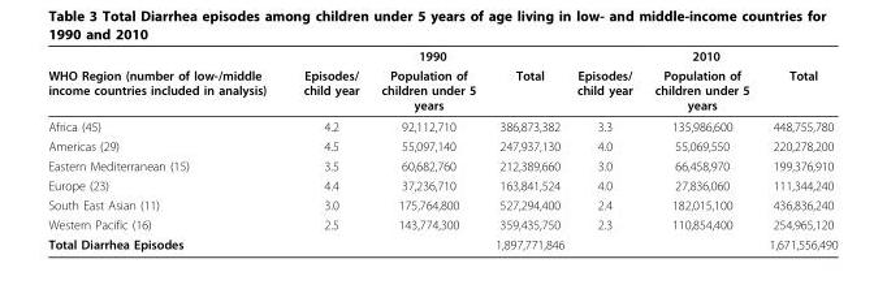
<table><thead><tr><td rowspan="2">WHO Region (number of low-/middle income countries included in analysis)</td><td colspan="3">1990</td><td colspan="3">2010</td></tr><tr><td>Episodes/ child year</td><td>Population of children under 5 years</td><td>Total</td><td>Episodes/ child year</td><td>Population of children under 5 years</td><td>Total</td></tr></thead><tbody><tr><td>Africa (45)</td><td>4.2</td><td>92,112,710</td><td>386,873,382</td><td>3.3</td><td>135,986,600</td><td>448,755,780</td></tr><tr><td>Americas (29)</td><td>4.5</td><td>55,097,140</td><td>247,937,130</td><td>4.0</td><td>55,069,550</td><td>220,278,200</td></tr><tr><td>Eastern Mediterranean (15)</td><td>3.5</td><td>60,682,760</td><td>212,389,660</td><td>3.0</td><td>66,458,970</td><td>199,376,910</td></tr><tr><td>Europe (23)</td><td>4.4</td><td>37,236,710</td><td>163,841,524</td><td>4.0</td><td>27,836,060</td><td>111,344,240</td></tr><tr><td>South East Asian (11)</td><td>3.0</td><td>175,764,800</td><td>527,294,400</td><td>2.4</td><td>182,015,100</td><td>436,836,240</td></tr><tr><td>Western Pacific (16)</td><td>2.5</td><td>143,774,300</td><td>359,435,750</td><td>2.3</td><td>110,854,400</td><td>254,965,120</td></tr><tr><td colspan="3">Total Diarrhea Episodes</td><td>1,897,771,846</td><td></td><td></td><td>1,671,556,490</td></tr></tbody></table>